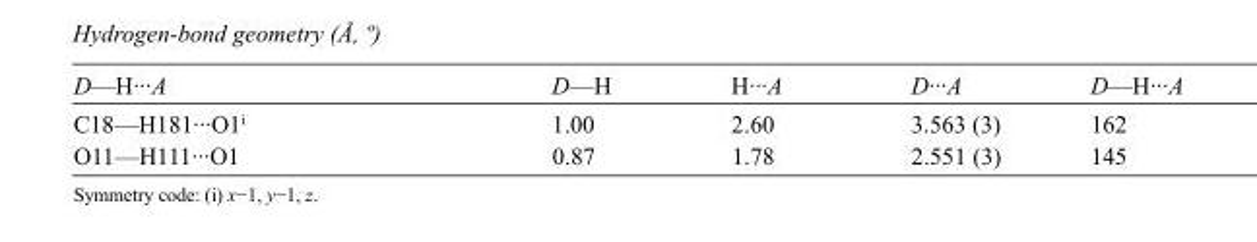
<table><tbody><tr><td>D—H···A</td><td>D—H</td><td>H···A</td><td>D···A</td><td>D—H···A</td></tr><tr><td>C18—H181···O1<sup>i</sup></td><td>1.00</td><td>2.60</td><td>3.563 (3)</td><td>162</td></tr><tr><td>O11—H111···O1</td><td>0.87</td><td>1.78</td><td>2.551 (3)</td><td>145</td></tr></tbody></table>